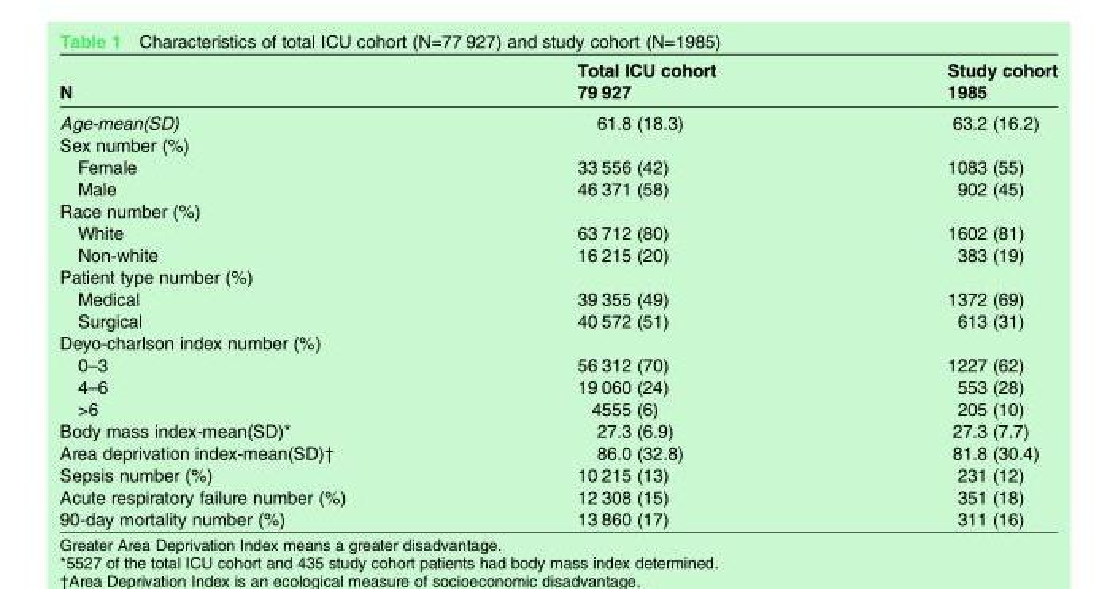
<table><thead><tr><td rowspan="2">N</td><td rowspan="2">Total ICU cohort 79 927</td><td rowspan="2">Study cohort 1985</td></tr><tr></tr></thead><tbody><tr><td>Age-mean(SD)</td><td>61.8 (18.3)</td><td>63.2 (16.2)</td></tr><tr><td colspan="3">Sex number (%)</td></tr><tr><td>Female</td><td>33 556 (42)</td><td>1083 (55)</td></tr><tr><td>Male</td><td>46 371 (58)</td><td>902 (45)</td></tr><tr><td colspan="3">Race number (%)</td></tr><tr><td>White</td><td>63 712 (80)</td><td>1602 (81)</td></tr><tr><td>Non-white</td><td>16 215 (20)</td><td>383 (19)</td></tr><tr><td colspan="3">Patient type number (%)</td></tr><tr><td>Medical</td><td>39 355 (49)</td><td>1372 (69)</td></tr><tr><td>Surgical</td><td>40 572 (51)</td><td>613 (31)</td></tr><tr><td colspan="3">Deyo-charlson index number (%)</td></tr><tr><td>0–3</td><td>56 312 (70)</td><td>1227 (62)</td></tr><tr><td>4–6</td><td>19 060 (24)</td><td>553 (28)</td></tr><tr><td>&gt;6</td><td>4555 (6)</td><td>205 (10)</td></tr><tr><td>Body mass index-mean(SD)*</td><td>27.3 (6.9)</td><td>27.3 (7.7)</td></tr><tr><td>Area deprivation index-mean(SD)†</td><td>86.0 (32.8)</td><td>81.8 (30.4)</td></tr><tr><td>Sepsis number (%)</td><td>10 215 (13)</td><td>231 (12)</td></tr><tr><td>Acute respiratory failure number (%)</td><td>12 308 (15)</td><td>351 (18)</td></tr><tr><td>90-day mortality number (%)</td><td>13 860 (17)</td><td>311 (16)</td></tr></tbody></table>